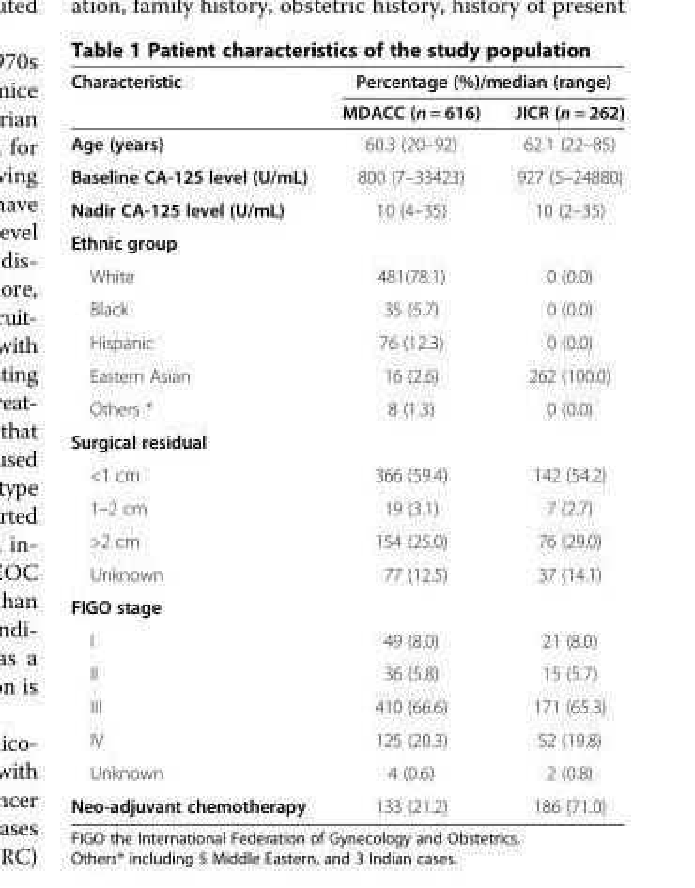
<table><thead><tr><td rowspan="2">Characteristic</td><td colspan="2">Percentage (%)/median (range)</td></tr><tr><td>MDACC (n = 616)</td><td>JICR (n = 262)</td></tr></thead><tbody><tr><td>Age (years)</td><td>60.3 (20–92)</td><td>62.1 (22–85)</td></tr><tr><td>Baseline CA-125 level (U/mL)</td><td>800 (7–33423)</td><td>927 (5–24880)</td></tr><tr><td>Nadir CA-125 level (U/mL)</td><td>10 (4–35)</td><td>10 (2–35)</td></tr><tr><td colspan="3">Ethnic group</td></tr><tr><td>White</td><td>481(78.1)</td><td>0 (0.0)</td></tr><tr><td>Black</td><td>35 (5.7)</td><td>0 (0.0)</td></tr><tr><td>Hispanic</td><td>76 (12.3)</td><td>0 (0.0)</td></tr><tr><td>Eastern Asian</td><td>16 (2.6)</td><td>262 (100.0)</td></tr><tr><td>Others *</td><td>8 (1.3)</td><td>0 (0.0)</td></tr><tr><td colspan="3">Surgical residual</td></tr><tr><td>&lt;1 cm</td><td>366 (59.4)</td><td>142 (54.2)</td></tr><tr><td>1–2 cm</td><td>19 (3.1)</td><td>7 (2.7)</td></tr><tr><td>&gt;2 cm</td><td>154 (25.0)</td><td>76 (29.0)</td></tr><tr><td>Unknown</td><td>77 (12.5)</td><td>37 (14.1)</td></tr><tr><td colspan="3">FIGO stage</td></tr><tr><td>I</td><td>49 (8.0)</td><td>21 (8.0)</td></tr><tr><td>II</td><td>36 (5.8)</td><td>15 (5.7)</td></tr><tr><td>III</td><td>410 (66.6)</td><td>171 (65.3)</td></tr><tr><td>IV</td><td>125 (20.3)</td><td>52 (19.8)</td></tr><tr><td>Unknown</td><td>4 (0.6)</td><td>2 (0.8)</td></tr><tr><td>Neo-adjuvant chemotherapy</td><td>133 (21.2)</td><td>186 (71.0)</td></tr></tbody></table>